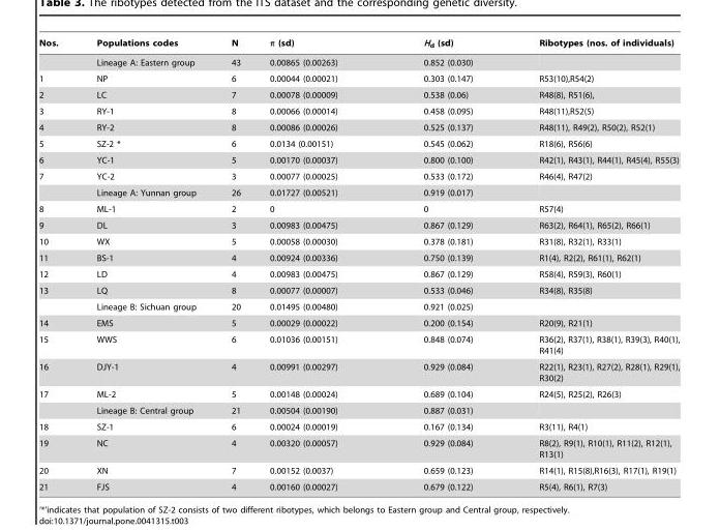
<table><thead><tr><td>Nos.</td><td>Populations codes</td><td>N</td><td>π (sd)</td><td>H<sub>d</sub> (sd)</td><td>Ribotypes (nos. of individuals)</td></tr></thead><tbody><tr><td></td><td>Lineage A: Eastern group</td><td>43</td><td>0.00865 (0.00263)</td><td>0.852 (0.030)</td><td></td></tr><tr><td>1</td><td>NP</td><td>6</td><td>0.00044 (0.00021)</td><td>0.303 (0.147)</td><td>R53(10),R54(2)</td></tr><tr><td>2</td><td>LC</td><td>7</td><td>0.00078 (0.00009)</td><td>0.538 (0.06)</td><td>R48(8), R51(6),</td></tr><tr><td>3</td><td>RY-1</td><td>8</td><td>0.00066 (0.00014)</td><td>0.458 (0.095)</td><td>R48(11),R52(5)</td></tr><tr><td>4</td><td>RY-2</td><td>8</td><td>0.00086 (0.00026)</td><td>0.525 (0.137)</td><td>R48(11), R49(2), R50(2), R52(1)</td></tr><tr><td>5</td><td>SZ-2 *</td><td>6</td><td>0.0134 (0.00151)</td><td>0.545 (0.062)</td><td>R18(6), R56(6)</td></tr><tr><td>6</td><td>YC-1</td><td>5</td><td>0.00170 (0.00037)</td><td>0.800 (0.100)</td><td>R42(1), R43(1), R44(1), R45(4), R55(3)</td></tr><tr><td rowspan="2">7</td><td>YC-2</td><td>3</td><td>0.00077 (0.00025)</td><td>0.533 (0.172)</td><td>R46(4), R47(2)</td></tr><tr><td>Lineage A: Yunnan group</td><td>26</td><td>0.01727 (0.00521)</td><td>0.919 (0.017)</td><td></td></tr><tr><td>8</td><td>ML-1</td><td>2</td><td>0</td><td>0</td><td>R57(4)</td></tr><tr><td>9</td><td>DL</td><td>3</td><td>0.00983 (0.00475)</td><td>0.867 (0.129)</td><td>R63(2), R64(1), R65(2), R66(1)</td></tr><tr><td>10</td><td>WX</td><td>5</td><td>0.00058 (0.00030)</td><td>0.378 (0.181)</td><td>R31(8), R32(1), R33(1)</td></tr><tr><td>11</td><td>BS-1</td><td>4</td><td>0.00924 (0.00336)</td><td>0.750 (0.139)</td><td>R1(4), R2(2), R61(1), R62(1)</td></tr><tr><td>12</td><td>LD</td><td>4</td><td>0.00983 (0.00475)</td><td>0.867 (0.129)</td><td>R58(4), R59(3), R60(1)</td></tr><tr><td rowspan="2">13</td><td>LQ</td><td>8</td><td>0.00077 (0.00007)</td><td>0.533 (0.046)</td><td>R34(8), R35(8)</td></tr><tr><td>Lineage B: Sichuan group</td><td>20</td><td>0.01495 (0.00480)</td><td>0.921 (0.025)</td><td></td></tr><tr><td>14</td><td>EMS</td><td>5</td><td>0.00029 (0.00022)</td><td>0.200 (0.154)</td><td>R20(9), R21(1)</td></tr><tr><td>15</td><td>WWS</td><td>6</td><td>0.01036 (0.00151)</td><td>0.848 (0.074)</td><td>R36(2), R37(1), R38(1), R39(3), R40(1), R41(4)</td></tr><tr><td>16</td><td>DJY-1</td><td>4</td><td>0.00991 (0.00297)</td><td>0.929 (0.084)</td><td>R22(1), R23(1), R27(2), R28(1), R29(1), R30(2)</td></tr><tr><td rowspan="2">17</td><td>ML-2</td><td>5</td><td>0.00148 (0.00024)</td><td>0.689 (0.104)</td><td>R24(5), R25(2), R26(3)</td></tr><tr><td>Lineage B: Central group</td><td>21</td><td>0.00504 (0.00190)</td><td>0.887 (0.031)</td><td></td></tr><tr><td>18</td><td>SZ-1</td><td>6</td><td>0.00024 (0.00019)</td><td>0.167 (0.134)</td><td>R3(11), R4(1)</td></tr><tr><td>19</td><td>NC</td><td>4</td><td>0.00320 (0.00057)</td><td>0.929 (0.084)</td><td>R8(2), R9(1), R10(1), R11(2), R12(1), R13(1)</td></tr><tr><td>20</td><td>XN</td><td>7</td><td>0.00152 (0.0037)</td><td>0.659 (0.123)</td><td>R14(1), R15(8),R16(3), R17(1), R19(1)</td></tr><tr><td>21</td><td>FJS</td><td>4</td><td>0.00160 (0.00027)</td><td>0.679 (0.122)</td><td>R5(4), R6(1), R7(3)</td></tr></tbody></table>